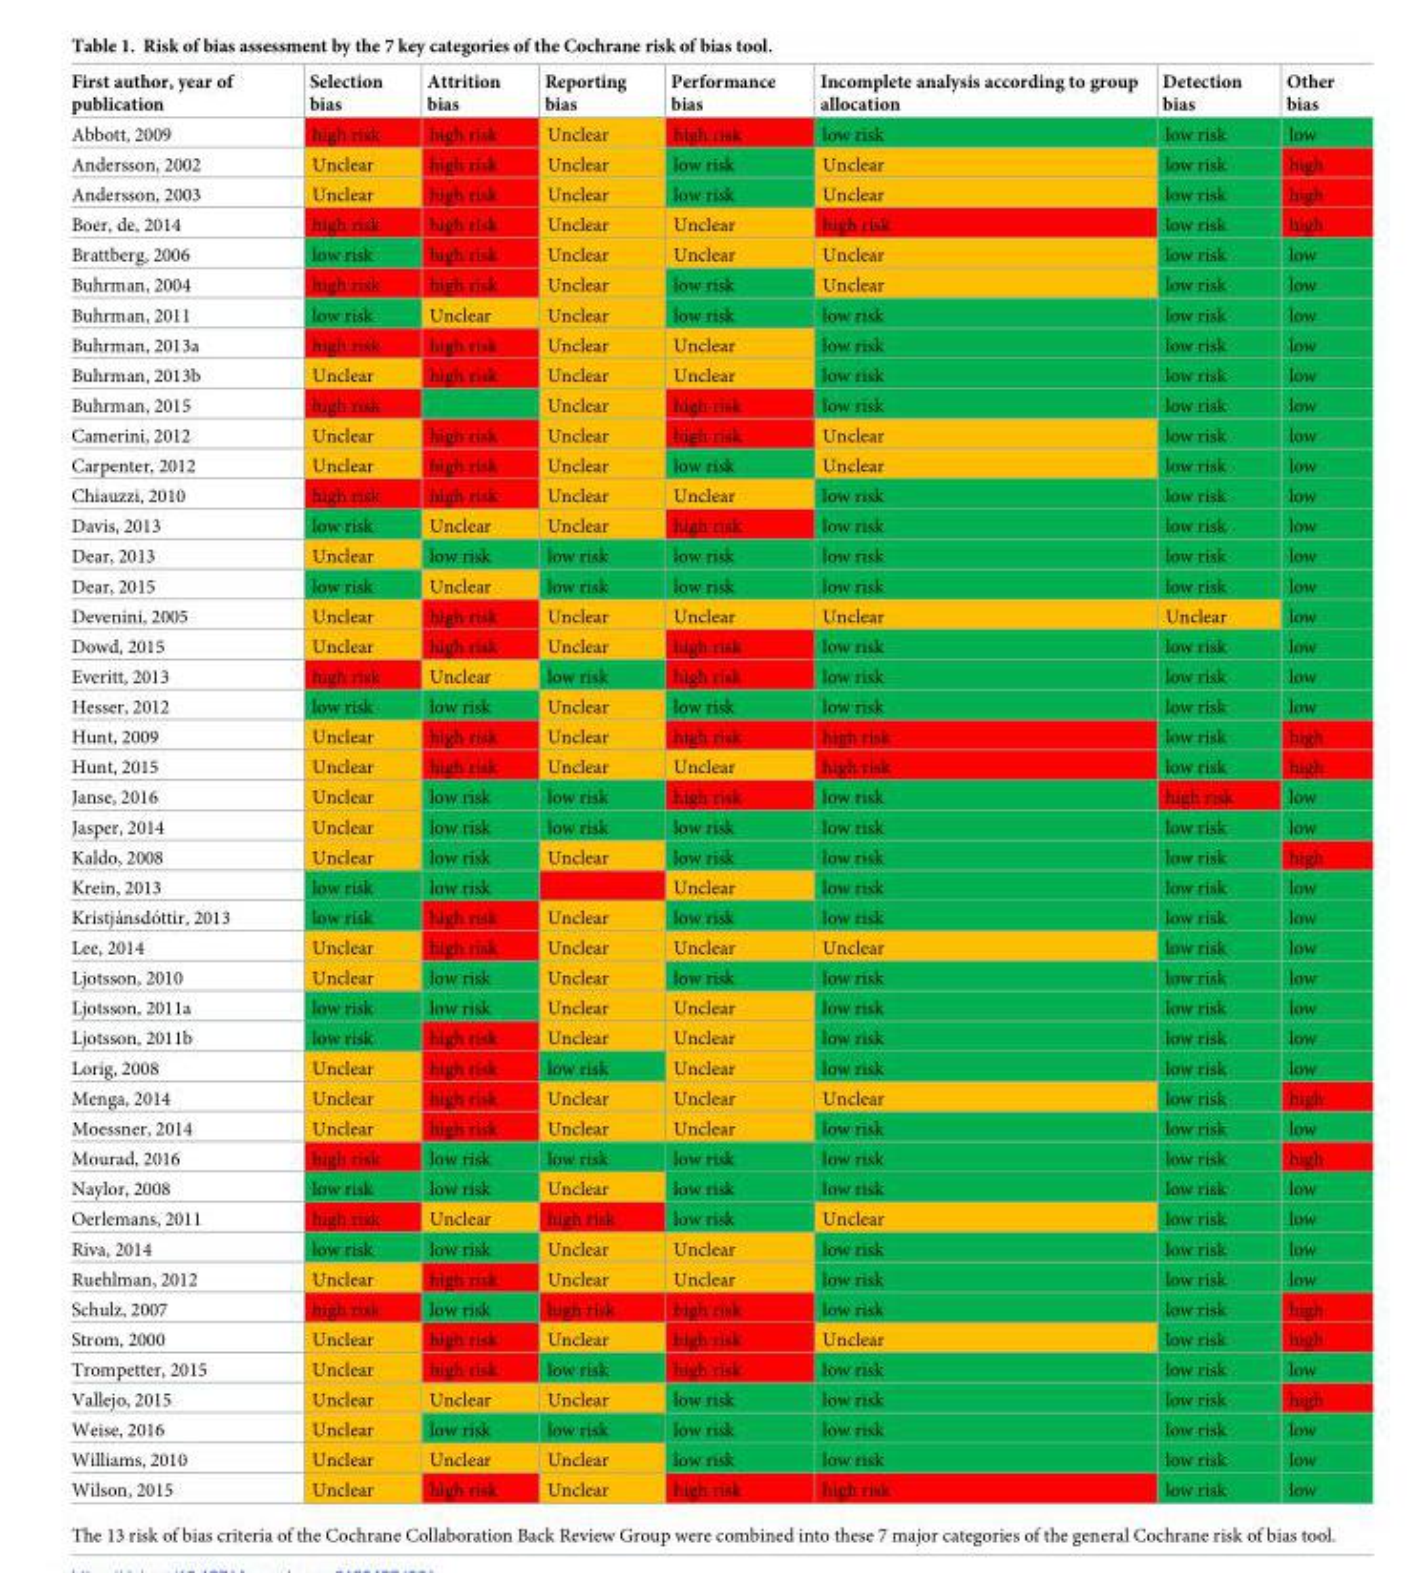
<table><thead><tr><td>First author, year of publication</td><td>Selection bias</td><td>Attrition bias</td><td>Reporting bias</td><td>Performance bias</td><td>Incomplete analysis according to group allocation</td><td>Detection bias</td><td>Other bias</td></tr></thead><tbody><tr><td>Abbott, 2009</td><td>high risk</td><td>high risk</td><td>Unclear</td><td>high risk</td><td>low risk</td><td>low risk</td><td>low</td></tr><tr><td>Andersson, 2002</td><td>Unclear</td><td>high risk</td><td>Unclear</td><td>low risk</td><td>Unclear</td><td>low risk</td><td>high</td></tr><tr><td>Andersson, 2003</td><td>Unclear</td><td>high risk</td><td>Unclear</td><td>low risk</td><td>Unclear</td><td>low risk</td><td>high</td></tr><tr><td>Boer, de, 2014</td><td>high risk</td><td>high risk</td><td>Unclear</td><td>Unclear</td><td>high risk</td><td>low risk</td><td>high</td></tr><tr><td>Brattberg, 2006</td><td>low risk</td><td>high risk</td><td>Unclear</td><td>Unclear</td><td>Unclear</td><td>low risk</td><td>low</td></tr><tr><td>Buhrman, 2004</td><td>high risk</td><td>high risk</td><td>Unclear</td><td>low risk</td><td>Unclear</td><td>low risk</td><td>low</td></tr><tr><td>Buhrman, 2011</td><td>low risk</td><td>Unclear</td><td>Unclear</td><td>low risk</td><td>low risk</td><td>low risk</td><td>low</td></tr><tr><td>Buhrman, 2013a</td><td>high risk</td><td>high risk</td><td>Unclear</td><td>Unclear</td><td>low risk</td><td>low risk</td><td>low</td></tr><tr><td>Buhrman, 2013b</td><td>Unclear</td><td>high risk</td><td>Unclear</td><td>Unclear</td><td>low risk</td><td>low risk</td><td>low</td></tr><tr><td>Buhrman, 2015</td><td>high risk</td><td></td><td>Unclear</td><td>high risk</td><td>low risk</td><td>low risk</td><td>low</td></tr><tr><td>Camerini, 2012</td><td>Unclear</td><td>high risk</td><td>Unclear</td><td>high risk</td><td>Unclear</td><td>low risk</td><td>low</td></tr><tr><td>Carpenter, 2012</td><td>Unclear</td><td>high risk</td><td>Unclear</td><td>low risk</td><td>Unclear</td><td>low risk</td><td>low</td></tr><tr><td>Chiauzzi, 2010</td><td>high risk</td><td>high risk</td><td>Unclear</td><td>Unclear</td><td>low risk</td><td>low risk</td><td>low</td></tr><tr><td>Davis, 2013</td><td>low risk</td><td>Unclear</td><td>Unclear</td><td>high risk</td><td>low risk</td><td>low risk</td><td>low</td></tr><tr><td>Dear, 2013</td><td>Unclear</td><td>low risk</td><td>low risk</td><td>low risk</td><td>low risk</td><td>low risk</td><td>low</td></tr><tr><td>Dear, 2015</td><td>low risk</td><td>Unclear</td><td>low risk</td><td>low risk</td><td>low risk</td><td>low risk</td><td>low</td></tr><tr><td>Devenini, 2005</td><td>Unclear</td><td>high risk</td><td>Unclear</td><td>Unclear</td><td>Unclear</td><td>Unclear</td><td>low</td></tr><tr><td>Dowd, 2015</td><td>Unclear</td><td>high risk</td><td>Unclear</td><td>high risk</td><td>low risk</td><td>low risk</td><td>low</td></tr><tr><td>Everitt, 2013</td><td>high risk</td><td>Unclear</td><td>low risk</td><td>high risk</td><td>low risk</td><td>low risk</td><td>low</td></tr><tr><td>Hesser, 2012</td><td>low risk</td><td>low risk</td><td>Unclear</td><td>low risk</td><td>low risk</td><td>low risk</td><td>low</td></tr><tr><td>Hunt, 2009</td><td>Unclear</td><td>high risk</td><td>Unclear</td><td>high risk</td><td>high risk</td><td>low risk</td><td>high</td></tr><tr><td>Hunt, 2015</td><td>Unclear</td><td>high risk</td><td>Unclear</td><td>Unclear</td><td>high risk</td><td>low risk</td><td>high</td></tr><tr><td>Janse, 2016</td><td>Unclear</td><td>low risk</td><td>low risk</td><td>high risk</td><td>low risk</td><td>high risk</td><td>low</td></tr><tr><td>Jasper, 2014</td><td>Unclear</td><td>low risk</td><td>low risk</td><td>low risk</td><td>low risk</td><td>low risk</td><td>low</td></tr><tr><td>Kaldo, 2008</td><td>Unclear</td><td>low risk</td><td>Unclear</td><td>low risk</td><td>low risk</td><td>low risk</td><td>high</td></tr><tr><td>Krein, 2013</td><td>low risk</td><td>low risk</td><td></td><td>Unclear</td><td>low risk</td><td>low risk</td><td>low</td></tr><tr><td>Kristja´nsdo´ttir, 2013</td><td>low risk</td><td>high risk</td><td>Unclear</td><td>low risk</td><td>low risk</td><td>low risk</td><td>low</td></tr><tr><td>Lee, 2014</td><td>Unclear</td><td>high risk</td><td>Unclear</td><td>Unclear</td><td>Unclear</td><td>low risk</td><td>low</td></tr><tr><td>Ljotsson, 2010</td><td>Unclear</td><td>low risk</td><td>Unclear</td><td>low risk</td><td>low risk</td><td>low risk</td><td>low</td></tr><tr><td>Ljotsson, 2011a</td><td>low risk</td><td>low risk</td><td>Unclear</td><td>Unclear</td><td>low risk</td><td>low risk</td><td>low</td></tr><tr><td>Ljotsson, 2011b</td><td>low risk</td><td>high risk</td><td>Unclear</td><td>Unclear</td><td>low risk</td><td>low risk</td><td>low</td></tr><tr><td>Lorig, 2008</td><td>Unclear</td><td>high risk</td><td>low risk</td><td>Unclear</td><td>low risk</td><td>low risk</td><td>low</td></tr><tr><td>Menga, 2014</td><td>Unclear</td><td>high risk</td><td>Unclear</td><td>Unclear</td><td>Unclear</td><td>low risk</td><td>high</td></tr><tr><td>Moessner, 2014</td><td>Unclear</td><td>high risk</td><td>Unclear</td><td>Unclear</td><td>low risk</td><td>low risk</td><td>low</td></tr><tr><td>Mourad, 2016</td><td>high risk</td><td>low risk</td><td>low risk</td><td>low risk</td><td>low risk</td><td>low risk</td><td>high</td></tr><tr><td>Naylor, 2008</td><td>low risk</td><td>low risk</td><td>Unclear</td><td>low risk</td><td>low risk</td><td>low risk</td><td>low</td></tr><tr><td>Oerlemans, 2011</td><td>high risk</td><td>Unclear</td><td>high risk</td><td>low risk</td><td>Unclear</td><td>low risk</td><td>low</td></tr><tr><td>Riva, 2014</td><td>low risk</td><td>low risk</td><td>Unclear</td><td>Unclear</td><td>low risk</td><td>low risk</td><td>low</td></tr><tr><td>Ruehlman, 2012</td><td>Unclear</td><td>high risk</td><td>Unclear</td><td>Unclear</td><td>low risk</td><td>low risk</td><td>low</td></tr><tr><td>Schulz, 2007</td><td>high risk</td><td>low risk</td><td>high risk</td><td>high risk</td><td>low risk</td><td>low risk</td><td>high</td></tr><tr><td>Strom, 2000</td><td>Unclear</td><td>high risk</td><td>Unclear</td><td>high risk</td><td>Unclear</td><td>low risk</td><td>high</td></tr><tr><td>Trompetter, 2015</td><td>Unclear</td><td>high risk</td><td>low risk</td><td>high risk</td><td>low risk</td><td>low risk</td><td>low</td></tr><tr><td>Vallejo, 2015</td><td>Unclear</td><td>Unclear</td><td>Unclear</td><td>low risk</td><td>low risk</td><td>low risk</td><td>high</td></tr><tr><td>Weise, 2016</td><td>Unclear</td><td>low risk</td><td>low risk</td><td>low risk</td><td>low risk</td><td>low risk</td><td>low</td></tr><tr><td>Williams, 2010</td><td>Unclear</td><td>Unclear</td><td>Unclear</td><td>low risk</td><td>low risk</td><td>low risk</td><td>low</td></tr><tr><td>Wilson, 2015</td><td>Unclear</td><td>high risk</td><td>Unclear</td><td>high risk</td><td>high risk</td><td>low risk</td><td>low</td></tr></tbody></table>